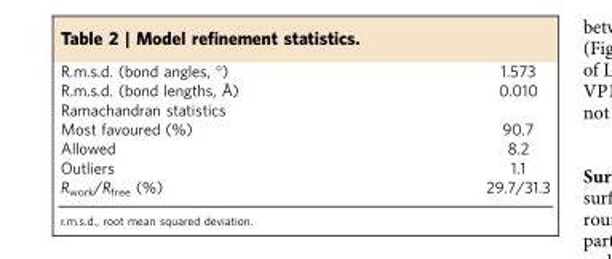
<table><tbody><tr><td>R.m.s.d. (bond angles, °)</td><td>1.573</td></tr><tr><td>R.m.s.d. (bond lengths, Å)</td><td>0.010</td></tr><tr><td colspan="2">Ramachandran statistics</td></tr><tr><td>Most favoured (%)</td><td>90.7</td></tr><tr><td>Allowed</td><td>8.2</td></tr><tr><td>Outliers</td><td>1.1</td></tr><tr><td>R<sub>work</sub>/R<sub>free</sub> (%)</td><td>29.7/31.3</td></tr></tbody></table>